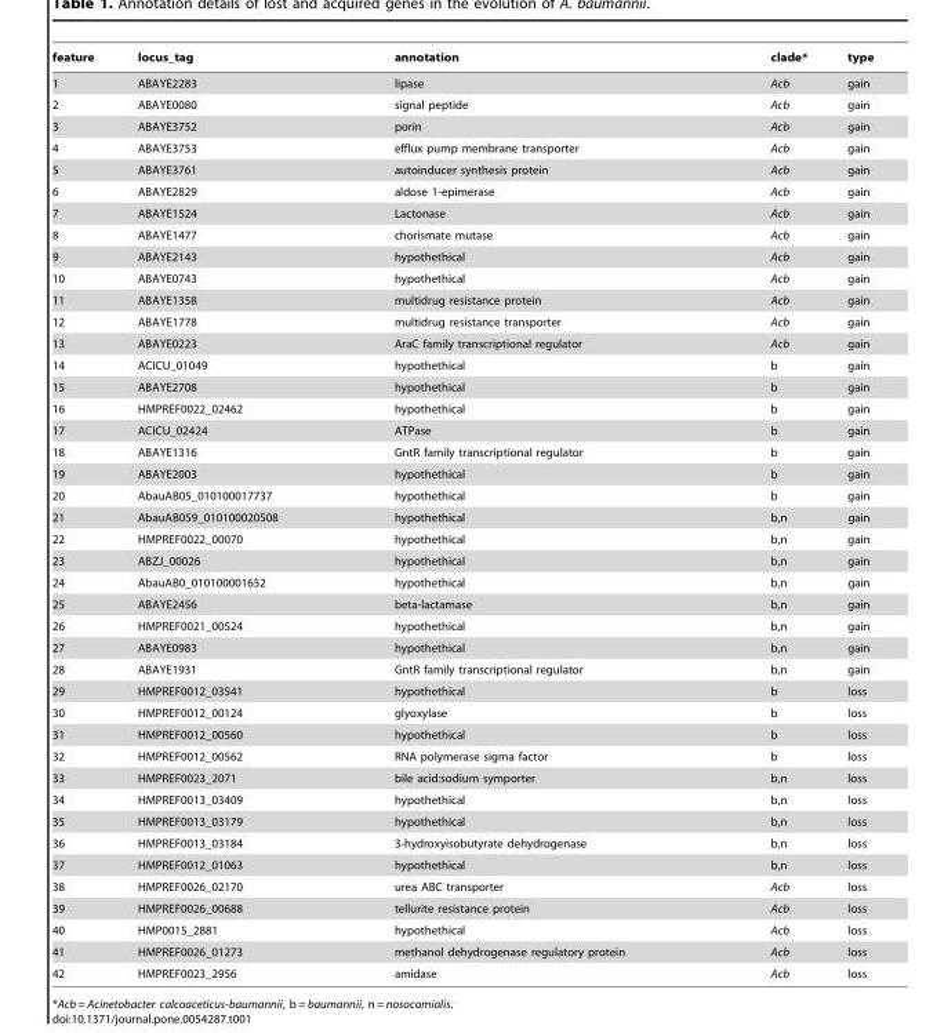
<table><thead><tr><td>feature</td><td>locus_tag</td><td>annotation</td><td>clade*</td><td>type</td></tr></thead><tbody><tr><td>1</td><td>ABAYE2283</td><td>lipase</td><td>Acb</td><td>gain</td></tr><tr><td>2</td><td>ABAYE0080</td><td>signal peptide</td><td>Acb</td><td>gain</td></tr><tr><td>3</td><td>ABAYE3752</td><td>porin</td><td>Acb</td><td>gain</td></tr><tr><td>4</td><td>ABAYE3753</td><td>efflux pump membrane transporter</td><td>Acb</td><td>gain</td></tr><tr><td>5</td><td>ABAYE3761</td><td>autoinducer synthesis protein</td><td>Acb</td><td>gain</td></tr><tr><td>6</td><td>ABAYE2829</td><td>aldose 1-epimerase</td><td>Acb</td><td>gain</td></tr><tr><td>7</td><td>ABAYE1524</td><td>Lactonase</td><td>Acb</td><td>gain</td></tr><tr><td>8</td><td>ABAYE1477</td><td>chorismate mutase</td><td>Acb</td><td>gain</td></tr><tr><td>9</td><td>ABAYE2143</td><td>hypothethical</td><td>Acb</td><td>gain</td></tr><tr><td>10</td><td>ABAYE0743</td><td>hypothethical</td><td>Acb</td><td>gain</td></tr><tr><td>11</td><td>ABAYE1358</td><td>multidrug resistance protein</td><td>Acb</td><td>gain</td></tr><tr><td>12</td><td>ABAYE1778</td><td>multidrug resistance transporter</td><td>Acb</td><td>gain</td></tr><tr><td>13</td><td>ABAYE0223</td><td>AraC family transcriptional regulator</td><td>Acb</td><td>gain</td></tr><tr><td>14</td><td>ACICU_01049</td><td>hypothethical</td><td>b</td><td>gain</td></tr><tr><td>15</td><td>ABAYE2708</td><td>hypothethical</td><td>b</td><td>gain</td></tr><tr><td>16</td><td>HMPREF0022_02462</td><td>hypothethical</td><td>b</td><td>gain</td></tr><tr><td>17</td><td>ACICU_02424</td><td>ATPase</td><td>b</td><td>gain</td></tr><tr><td>18</td><td>ABAYE1316</td><td>GntR family transcriptional regulator</td><td>b</td><td>gain</td></tr><tr><td>19</td><td>ABAYE2003</td><td>hypothethical</td><td>b</td><td>gain</td></tr><tr><td>20</td><td>AbauAB05_010100017737</td><td>hypothethical</td><td>b</td><td>gain</td></tr><tr><td>21</td><td>AbauAB059_010100020508</td><td>hypothethical</td><td>b,n</td><td>gain</td></tr><tr><td>22</td><td>HMPREF0022_00070</td><td>hypothethical</td><td>b,n</td><td>gain</td></tr><tr><td>23</td><td>ABZJ_00026</td><td>hypothethical</td><td>b,n</td><td>gain</td></tr><tr><td>24</td><td>AbauAB0_010100001652</td><td>hypothethical</td><td>b,n</td><td>gain</td></tr><tr><td>25</td><td>ABAYE2456</td><td>beta-lactamase</td><td>b,n</td><td>gain</td></tr><tr><td>26</td><td>HMPREF0021_00524</td><td>hypothethical</td><td>b,n</td><td>gain</td></tr><tr><td>27</td><td>ABAYE0983</td><td>hypothethical</td><td>b,n</td><td>gain</td></tr><tr><td>28</td><td>ABAYE1931</td><td>GntR family transcriptional regulator</td><td>b,n</td><td>gain</td></tr><tr><td>29</td><td>HMPREF0012_03541</td><td>hypothethical</td><td>b</td><td>loss</td></tr><tr><td>30</td><td>HMPREF0012_00124</td><td>glyoxylase</td><td>b</td><td>loss</td></tr><tr><td>31</td><td>HMPREF0012_00560</td><td>hypothethical</td><td>b</td><td>loss</td></tr><tr><td>32</td><td>HMPREF0012_00562</td><td>RNA polymerase sigma factor</td><td>b</td><td>loss</td></tr><tr><td>33</td><td>HMPREF0023_2071</td><td>bile acid:sodium symporter</td><td>b,n</td><td>loss</td></tr><tr><td>34</td><td>HMPREF0013_03409</td><td>hypothethical</td><td>b,n</td><td>loss</td></tr><tr><td>35</td><td>HMPREF0013_03179</td><td>hypothethical</td><td>b,n</td><td>loss</td></tr><tr><td>36</td><td>HMPREF0013_03184</td><td>3-hydroxyisobutyrate dehydrogenase</td><td>b,n</td><td>loss</td></tr><tr><td>37</td><td>HMPREF0012_01063</td><td>hypothethical</td><td>b,n</td><td>loss</td></tr><tr><td>38</td><td>HMPREF0026_02170</td><td>urea ABC transporter</td><td>Acb</td><td>loss</td></tr><tr><td>39</td><td>HMPREF0026_00688</td><td>tellurite resistance protein</td><td>Acb</td><td>loss</td></tr><tr><td>40</td><td>HMP0015_2881</td><td>hypothethical</td><td>Acb</td><td>loss</td></tr><tr><td>41</td><td>HMPREF0026_01273</td><td>methanol dehydrogenase regulatory protein</td><td>Acb</td><td>loss</td></tr><tr><td>42</td><td>HMPREF0023_2956</td><td>amidase</td><td>Acb</td><td>loss</td></tr></tbody></table>